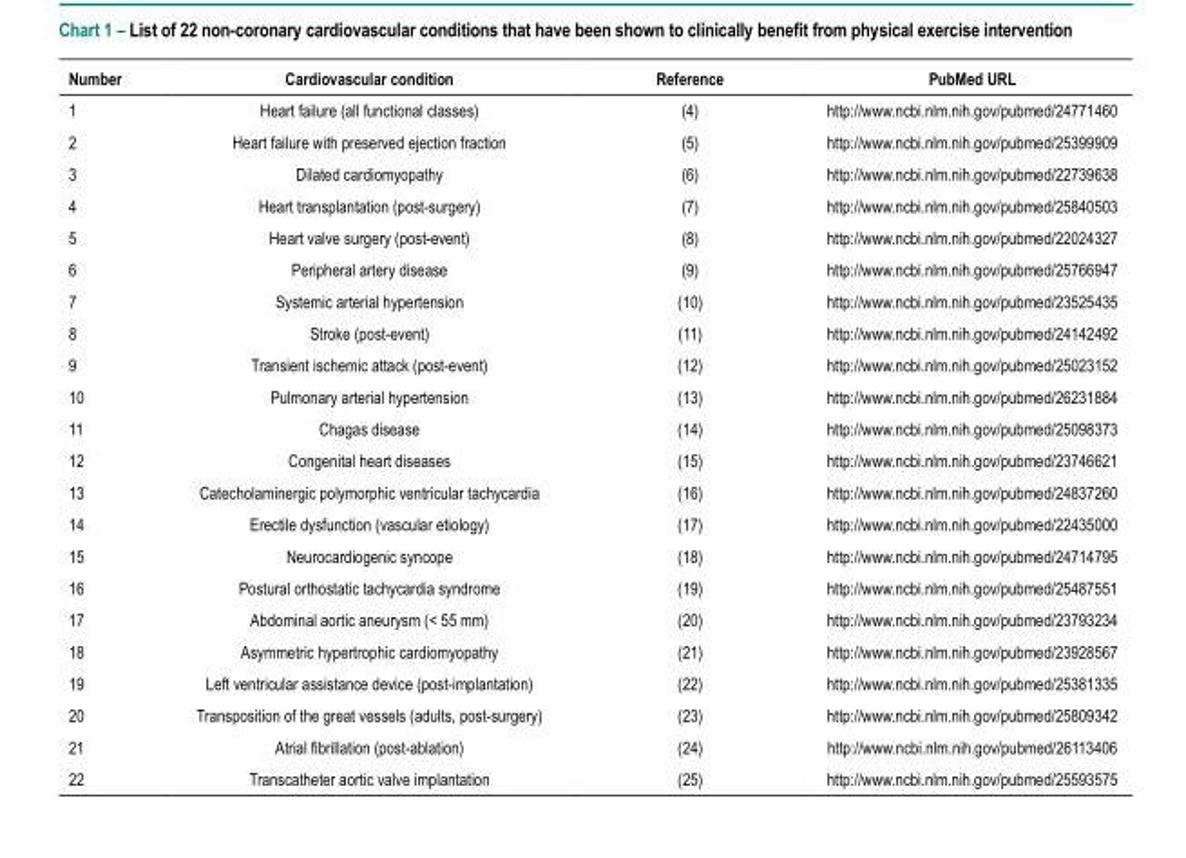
<table><thead><tr><td>Number</td><td>Cardiovascular condition</td><td>Reference</td><td>PubMed URL</td></tr></thead><tbody><tr><td>1</td><td>Heart failure (all functional classes)</td><td>(4)</td><td>http://www.ncbi.nlm.nih.gov/pubmed/24771460</td></tr><tr><td>2</td><td>Heart failure with preserved ejection fraction</td><td>(5)</td><td>http://www.ncbi.nlm.nih.gov/pubmed/25399909</td></tr><tr><td>3</td><td>Dilated cardiomyopathy</td><td>(6)</td><td>http://www.ncbi.nlm.nih.gov/pubmed/22739638</td></tr><tr><td>4</td><td>Heart transplantation (post-surgery)</td><td>(7)</td><td>http://www.ncbi.nlm.nih.gov/pubmed/25840503</td></tr><tr><td>5</td><td>Heart valve surgery (post-event)</td><td>(8)</td><td>http://www.ncbi.nlm.nih.gov/pubmed/22024327</td></tr><tr><td>6</td><td>Peripheral artery disease</td><td>(9)</td><td>http://www.ncbi.nlm.nih.gov/pubmed/25766947</td></tr><tr><td>7</td><td>Systemic arterial hypertension</td><td>(10)</td><td>http://www.ncbi.nlm.nih.gov/pubmed/23525435</td></tr><tr><td>8</td><td>Stroke (post-event)</td><td>(11)</td><td>http://www.ncbi.nlm.nih.gov/pubmed/24142492</td></tr><tr><td>9</td><td>Transient ischemic attack (post-event)</td><td>(12)</td><td>http://www.ncbi.nlm.nih.gov/pubmed/25023152</td></tr><tr><td>10</td><td>Pulmonary arterial hypertension</td><td>(13)</td><td>http://www.ncbi.nlm.nih.gov/pubmed/26231884</td></tr><tr><td>11</td><td>Chagas disease</td><td>(14)</td><td>http://www.ncbi.nlm.nih.gov/pubmed/25098373</td></tr><tr><td>12</td><td>Congenital heart diseases</td><td>(15)</td><td>http://www.ncbi.nlm.nih.gov/pubmed/23746621</td></tr><tr><td>13</td><td>Catecholaminergic polymorphic ventricular tachycardia</td><td>(16)</td><td>http://www.ncbi.nlm.nih.gov/pubmed/24837260</td></tr><tr><td>14</td><td>Erectile dysfunction (vascular etiology)</td><td>(17)</td><td>http://www.ncbi.nlm.nih.gov/pubmed/22435000</td></tr><tr><td>15</td><td>Neurocardiogenic syncope</td><td>(18)</td><td>http://www.ncbi.nlm.nih.gov/pubmed/24714795</td></tr><tr><td>16</td><td>Postural orthostatic tachycardia syndrome</td><td>(19)</td><td>http://www.ncbi.nlm.nih.gov/pubmed/25487551</td></tr><tr><td>17</td><td>Abdominal aortic aneurysm (&lt; 55 mm)</td><td>(20)</td><td>http://www.ncbi.nlm.nih.gov/pubmed/23793234</td></tr><tr><td>18</td><td>Asymmetric hypertrophic cardiomyopathy</td><td>(21)</td><td>http://www.ncbi.nlm.nih.gov/pubmed/23928567</td></tr><tr><td>19</td><td>Left ventricular assistance device (post-implantation)</td><td>(22)</td><td>http://www.ncbi.nlm.nih.gov/pubmed/25381335</td></tr><tr><td>20</td><td>Transposition of the great vessels (adults, post-surgery)</td><td>(23)</td><td>http://www.ncbi.nlm.nih.gov/pubmed/25809342</td></tr><tr><td>21</td><td>Atrial fibrillation (post-ablation)</td><td>(24)</td><td>http://www.ncbi.nlm.nih.gov/pubmed/26113406</td></tr><tr><td>22</td><td>Transcatheter aortic valve implantation</td><td>(25)</td><td>http://www.ncbi.nlm.nih.gov/pubmed/25593575</td></tr></tbody></table>